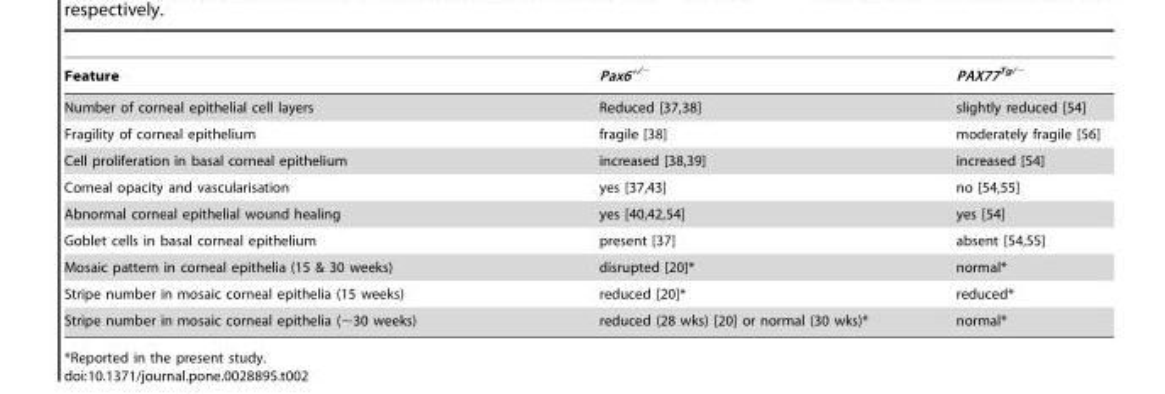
<table><thead><tr><td>Feature</td><td>Pax6<sup>+/−</sup></td><td>PAX77<sup>Tg/−</sup></td></tr></thead><tbody><tr><td>Number of corneal epithelial cell layers</td><td>Reduced [37,38]</td><td>slightly reduced [54]</td></tr><tr><td>Fragility of corneal epithelium</td><td>fragile [38]</td><td>moderately fragile [56]</td></tr><tr><td>Cell proliferation in basal corneal epithelium</td><td>increased [38,39]</td><td>increased [54]</td></tr><tr><td>Corneal opacity and vascularisation</td><td>yes [37,43]</td><td>no [54,55]</td></tr><tr><td>Abnormal corneal epithelial wound healing</td><td>yes [40,42,54]</td><td>yes [54]</td></tr><tr><td>Goblet cells in basal corneal epithelium</td><td>present [37]</td><td>absent [54,55]</td></tr><tr><td>Mosaic pattern in corneal epithelia (15 &amp; 30 weeks)</td><td>disrupted [20]*</td><td>normal*</td></tr><tr><td>Stripe number in mosaic corneal epithelia (15 weeks)</td><td>reduced [20]*</td><td>reduced*</td></tr><tr><td>Stripe number in mosaic corneal epithelia (∼30 weeks)</td><td>reduced (28 wks) [20] or normal (30 wks)*</td><td>normal*</td></tr></tbody></table>